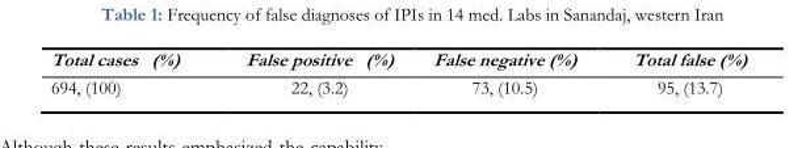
<table><thead><tr><td>Total cases (%)</td><td>False positive (%)</td><td>False negative (%)</td><td>Total false (%)</td></tr></thead><tbody><tr><td>694, (100)</td><td>22, (3.2)</td><td>73, (10.5)</td><td>95, (13.7)</td></tr></tbody></table>